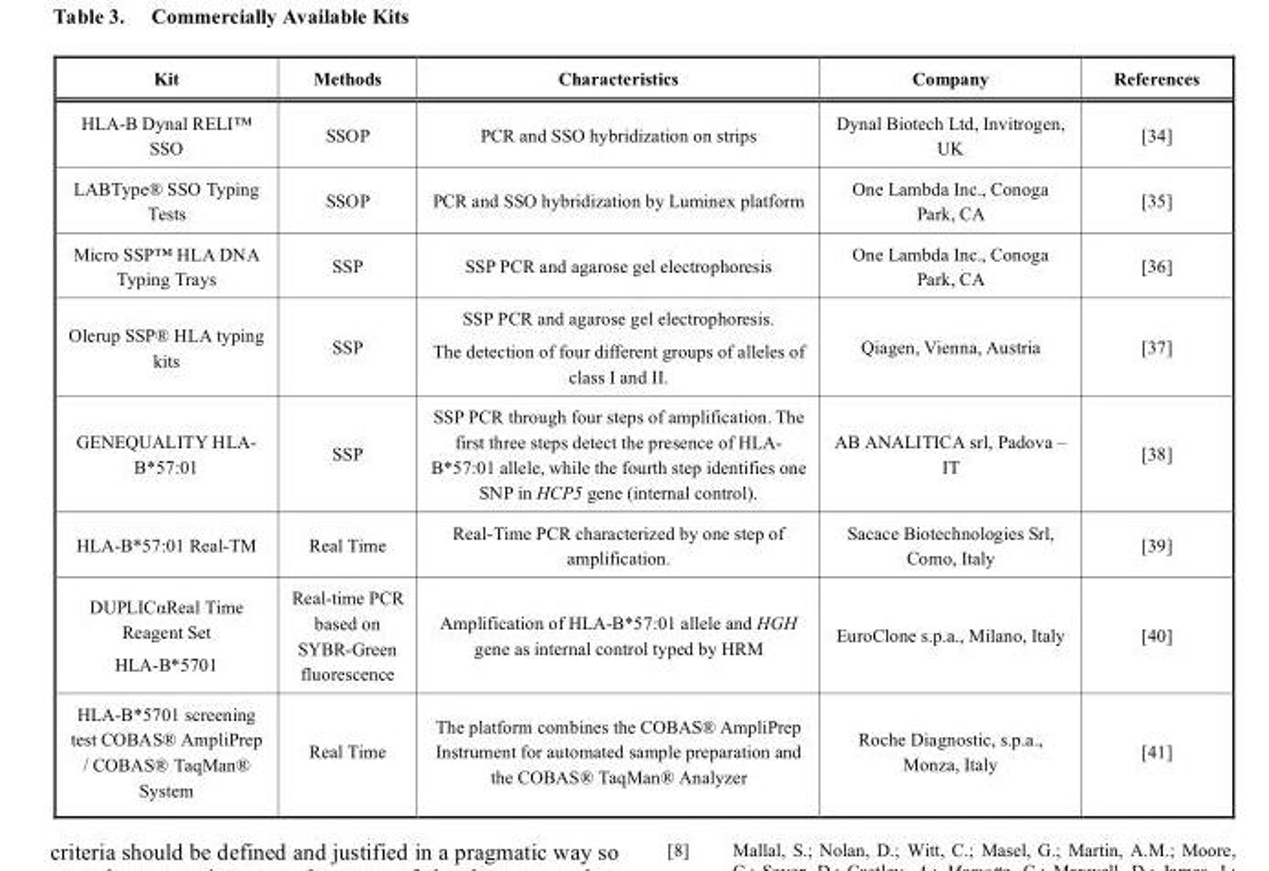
<table><thead><tr><td>Kit</td><td>Methods</td><td>Characteristics</td><td>Company</td><td>References</td></tr></thead><tbody><tr><td>HLA-B Dynal RELI™ SSO</td><td>SSOP</td><td>PCR and SSO hybridization on strips</td><td>Dynal Biotech Ltd, Invitrogen, UK</td><td>[34]</td></tr><tr><td>LABType® SSO Typing Tests</td><td>SSOP</td><td>PCR and SSO hybridization by Luminex platform</td><td>One Lambda Inc., Conoga Park, CA</td><td>[35]</td></tr><tr><td>Micro SSP™ HLA DNA Typing Trays</td><td>SSP</td><td>SSP PCR and agarose gel electrophoresis</td><td>One Lambda Inc., Conoga Park, CA</td><td>[36]</td></tr><tr><td>Olerup SSP® HLA typing kits</td><td>SSP</td><td>SSP PCR and agarose gel electrophoresis. The detection of four different groups of alleles of class I and II.</td><td>Qiagen, Vienna, Austria</td><td>[37]</td></tr><tr><td>GENEQUALITY HLA- B*57:01</td><td>SSP</td><td>SSP PCR through four steps of amplification. The first three steps detect the presence of HLA- B*57:01 allele, while the fourth step identifies one SNP in HCP5 gene (internal control).</td><td>AB ANALITICA srl, Padova – IT</td><td>[38]</td></tr><tr><td>HLA-B*57:01 Real-TM</td><td>Real Time</td><td>Real-Time PCR characterized by one step of amplification.</td><td>Sacace Biotechnologies Srl, Como, Italy</td><td>[39]</td></tr><tr><td>DUPLICαReal Time Reagent Set HLA-B*5701</td><td>Real-time PCR based on SYBR-Green fluorescence</td><td>Amplification of HLA-B*57:01 allele and HGH gene as internal control typed by HRM</td><td>EuroClone s.p.a., Milano, Italy</td><td>[40]</td></tr><tr><td>HLA-B*5701 screening test COBAS® AmpliPrep / COBAS® TaqMan® System</td><td>Real Time</td><td>The platform combines the COBAS® AmpliPrep Instrument for automated sample preparation and the COBAS® TaqMan® Analyzer</td><td>Roche Diagnostic, s.p.a., Monza, Italy</td><td>[41]</td></tr></tbody></table>